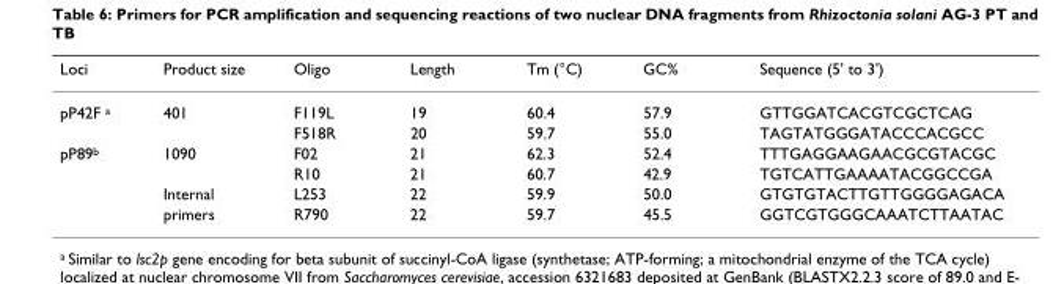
<table><thead><tr><td>Loci</td><td>Product size</td><td>Oligo</td><td>Length</td><td>Tm (°C)</td><td>GC%</td><td>Sequence (5&#x27; to 3&#x27;)</td></tr></thead><tbody><tr><td rowspan="2">pP42F <sup>a</sup></td><td>401</td><td>F119L</td><td>19</td><td>60.4</td><td>57.9</td><td>GTTGGATCACGTCGCTCAG</td></tr><tr><td></td><td>F518R</td><td>20</td><td>59.7</td><td>55.0</td><td>TAGTATGGGATACCCACGCC</td></tr><tr><td rowspan="4">pP89<sup>b</sup></td><td>1090</td><td>F02</td><td>21</td><td>62.3</td><td>52.4</td><td>TTTGAGGAAGAACGCGTACGC</td></tr><tr><td></td><td>R10</td><td>21</td><td>60.7</td><td>42.9</td><td>TGTCATTGAAAATACGGCCGA</td></tr><tr><td>Internal</td><td>L253</td><td>22</td><td>59.9</td><td>50.0</td><td>GTGTGTACTTGTTGGGGAGACA</td></tr><tr><td>primers</td><td>R790</td><td>22</td><td>59.7</td><td>45.5</td><td>GGTCGTGGGCAAATCTTAATAC</td></tr></tbody></table>